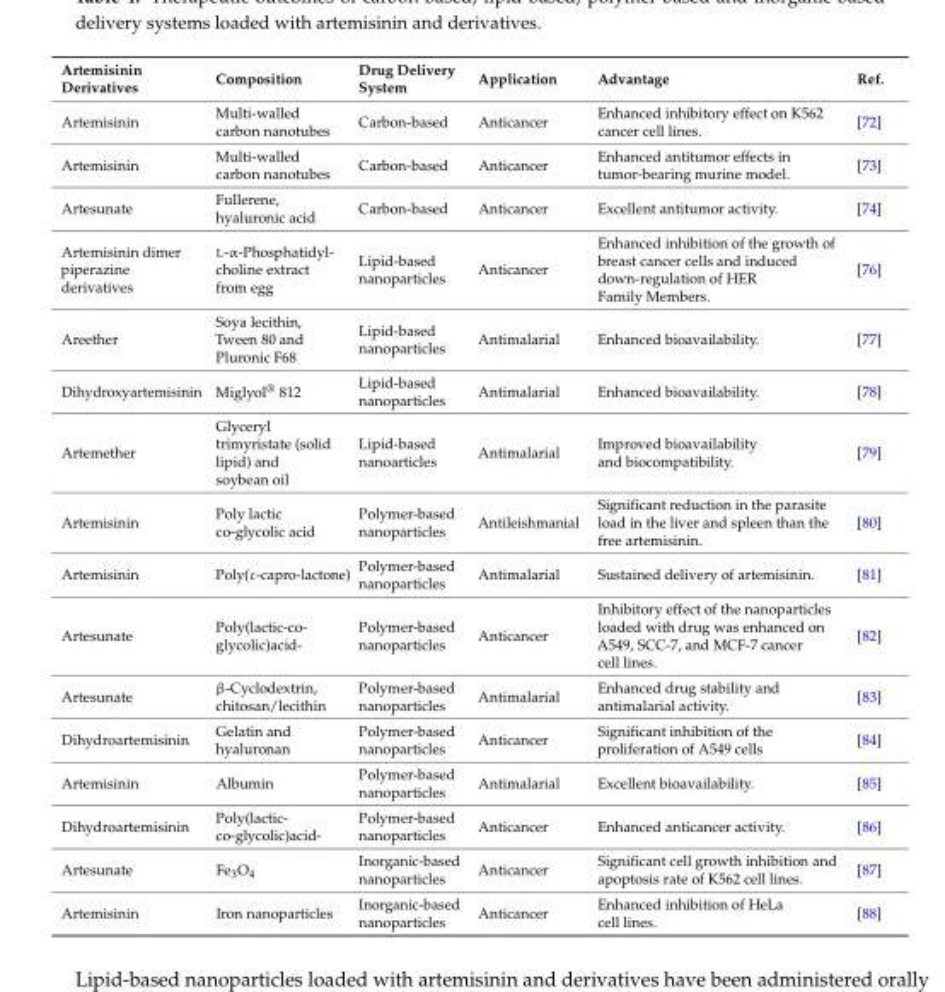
<table><thead><tr><td>Artemisinin Derivatives</td><td>Composition</td><td>Drug Delivery System</td><td>Application</td><td>Advantage</td><td>Ref.</td></tr></thead><tbody><tr><td>Artemisinin</td><td>Multi-walled carbon nanotubes</td><td>Carbon-based</td><td>Anticancer</td><td>Enhanced inhibitory effect on K562 cancer cell lines.</td><td>[72]</td></tr><tr><td>Artemisinin</td><td>Multi-walled carbon nanotubes</td><td>Carbon-based</td><td>Anticancer</td><td>Enhanced antitumor effects in tumor-bearing murine model.</td><td>[73]</td></tr><tr><td>Artesunate</td><td>Fullerene, hyaluronic acid</td><td>Carbon-based</td><td>Anticancer</td><td>Excellent antitumor activity.</td><td>[74]</td></tr><tr><td>Artemisinin dimer piperazine derivatives</td><td>L-α-Phosphatidyl- choline extract from egg</td><td>Lipid-based nanoparticles</td><td>Anticancer</td><td>Enhanced inhibition of the growth of breast cancer cells and induced down-regulation of HER Family Members.</td><td>[76]</td></tr><tr><td>Areether</td><td>Soya lecithin, Tween 80 and Pluronic F68</td><td>Lipid-based nanoparticles</td><td>Antimalarial</td><td>Enhanced bioavailability.</td><td>[77]</td></tr><tr><td>Dihydroxyartemisinin</td><td>Miglyol<sup>®</sup> 812</td><td>Lipid-based nanoparticles</td><td>Antimalarial</td><td>Enhanced bioavailability.</td><td>[78]</td></tr><tr><td>Artemether</td><td>Glyceryl trimyristate (solid lipid) and soybean oil</td><td>Lipid-based nanoarticles</td><td>Antimalarial</td><td>Improved bioavailability and biocompatibility.</td><td>[79]</td></tr><tr><td>Artemisinin</td><td>Poly lactic co-glycolic acid</td><td>Polymer-based nanoparticles</td><td>Antileishmanial</td><td>Significant reduction in the parasite load in the liver and spleen than the free artemisinin.</td><td>[80]</td></tr><tr><td>Artemisinin</td><td>Poly(ε-capro-lactone)</td><td>Polymer-based nanoparticles</td><td>Antimalarial</td><td>Sustained delivery of artemisinin.</td><td>[81]</td></tr><tr><td>Artesunate</td><td>Poly(lactic-co- glycolic)acid-</td><td>Polymer-based nanoparticles</td><td>Anticancer</td><td>Inhibitory effect of the nanoparticles loaded with drug was enhanced on A549, SCC-7, and MCF-7 cancer cell lines.</td><td>[82]</td></tr><tr><td>Artesunate</td><td>β-Cyclodextrin, chitosan/lecithin</td><td>Polymer-based nanoparticles</td><td>Antimalarial</td><td>Enhanced drug stability and antimalarial activity.</td><td>[83]</td></tr><tr><td>Dihydroartemisinin</td><td>Gelatin and hyaluronan</td><td>Polymer-based nanoparticles</td><td>Anticancer</td><td>Significant inhibition of the proliferation of A549 cells</td><td>[84]</td></tr><tr><td>Artemisinin</td><td>Albumin</td><td>Polymer-based nanoparticles</td><td>Antimalarial</td><td>Excellent bioavailability.</td><td>[85]</td></tr><tr><td>Dihydroartemisinin</td><td>Poly(lactic- co-glycolic)acid-</td><td>Polymer-based nanoparticles</td><td>Anticancer</td><td>Enhanced anticancer activity.</td><td>[86]</td></tr><tr><td>Artesunate</td><td>Fe<sub>3</sub>O<sub>4</sub></td><td>Inorganic-based nanoparticles</td><td>Anticancer</td><td>Significant cell growth inhibition and apoptosis rate of K562 cell lines.</td><td>[87]</td></tr><tr><td>Artemisinin</td><td>Iron nanoparticles</td><td>Inorganic-based nanoparticles</td><td>Anticancer</td><td>Enhanced inhibition of HeLa cell lines.</td><td>[88]</td></tr></tbody></table>